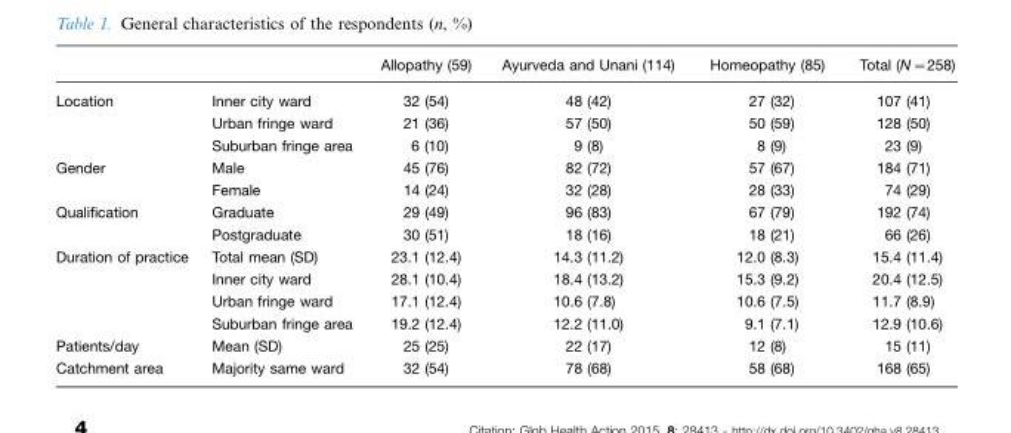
<table><thead><tr><td></td><td></td><td>Allopathy (59)</td><td>Ayurveda and Unani (114)</td><td>Homeopathy (85)</td><td>Total (N=258)</td></tr></thead><tbody><tr><td rowspan="3">Location</td><td>Inner city ward</td><td>32 (54)</td><td>48 (42)</td><td>27 (32)</td><td>107 (41)</td></tr><tr><td>Urban fringe ward</td><td>21 (36)</td><td>57 (50)</td><td>50 (59)</td><td>128 (50)</td></tr><tr><td>Suburban fringe area</td><td>6 (10)</td><td>9 (8)</td><td>8 (9)</td><td>23 (9)</td></tr><tr><td rowspan="2">Gender</td><td>Male</td><td>45 (76)</td><td>82 (72)</td><td>57 (67)</td><td>184 (71)</td></tr><tr><td>Female</td><td>14 (24)</td><td>32 (28)</td><td>28 (33)</td><td>74 (29)</td></tr><tr><td rowspan="2">Qualification</td><td>Graduate</td><td>29 (49)</td><td>96 (83)</td><td>67 (79)</td><td>192 (74)</td></tr><tr><td>Postgraduate</td><td>30 (51)</td><td>18 (16)</td><td>18 (21)</td><td>66 (26)</td></tr><tr><td rowspan="4">Duration of practice</td><td>Total mean (SD)</td><td>23.1 (12.4)</td><td>14.3 (11.2)</td><td>12.0 (8.3)</td><td>15.4 (11.4)</td></tr><tr><td>Inner city ward</td><td>28.1 (10.4)</td><td>18.4 (13.2)</td><td>15.3 (9.2)</td><td>20.4 (12.5)</td></tr><tr><td>Urban fringe ward</td><td>17.1 (12.4)</td><td>10.6 (7.8)</td><td>10.6 (7.5)</td><td>11.7 (8.9)</td></tr><tr><td>Suburban fringe area</td><td>19.2 (12.4)</td><td>12.2 (11.0)</td><td>9.1 (7.1)</td><td>12.9 (10.6)</td></tr><tr><td>Patients/day</td><td>Mean (SD)</td><td>25 (25)</td><td>22 (17)</td><td>12 (8)</td><td>15 (11)</td></tr><tr><td>Catchment area</td><td>Majority same ward</td><td>32 (54)</td><td>78 (68)</td><td>58 (68)</td><td>168 (65)</td></tr></tbody></table>